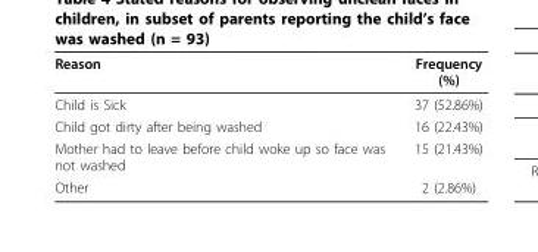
<table><thead><tr><td>Reason</td><td>Frequency (%)</td></tr></thead><tbody><tr><td>Child is Sick</td><td>37 (52.86%)</td></tr><tr><td>Child got dirty after being washed</td><td>16 (22.43%)</td></tr><tr><td>Mother had to leave before child woke up so face was not washed</td><td>15 (21.43%)</td></tr><tr><td>Other</td><td>2 (2.86%)</td></tr></tbody></table>